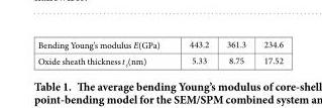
<table><tbody><tr><td>Bending Young’s modulus E(GPa)</td><td>443.2</td><td>361.3</td><td>234.6</td></tr><tr><td>Oxide sheath thickness t s(nm)</td><td>5.33</td><td>8.75</td><td>17.52</td></tr></tbody></table>